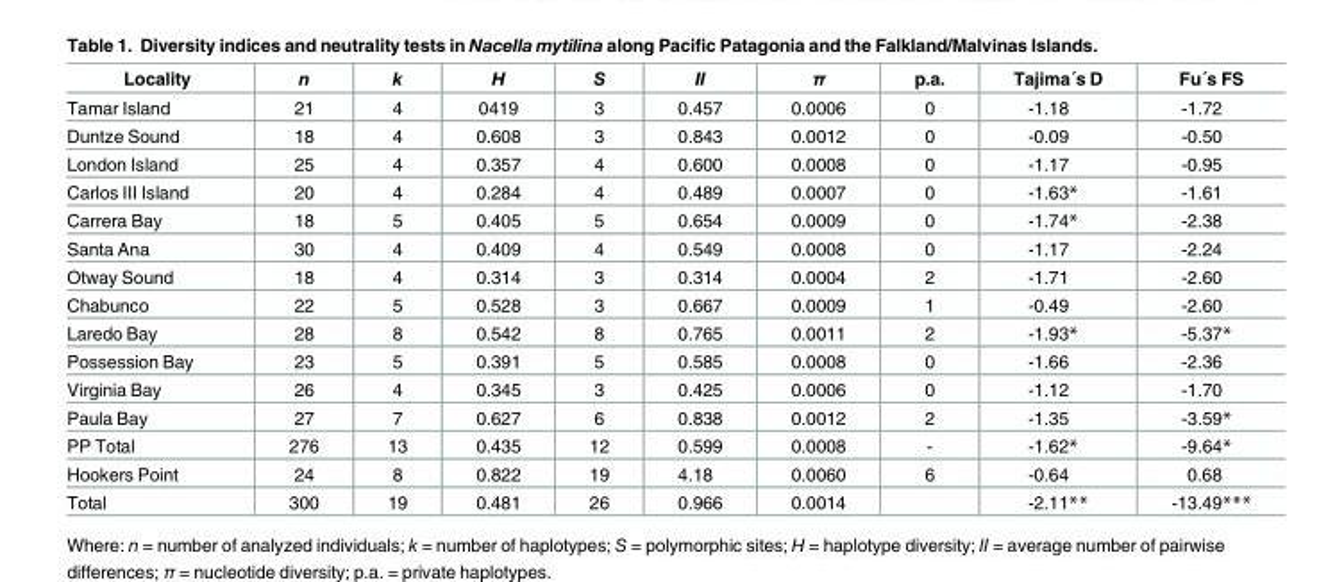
<table><thead><tr><td>Locality</td><td>n</td><td>k</td><td>H</td><td>S</td><td>II</td><td>π</td><td>p.a.</td><td>Tajima´s D</td><td>Fu´s FS</td></tr></thead><tbody><tr><td>Tamar Island</td><td>21</td><td>4</td><td>0419</td><td>3</td><td>0.457</td><td>0.0006</td><td>0</td><td>-1.18</td><td>-1.72</td></tr><tr><td>Duntze Sound</td><td>18</td><td>4</td><td>0.608</td><td>3</td><td>0.843</td><td>0.0012</td><td>0</td><td>-0.09</td><td>-0.50</td></tr><tr><td>London Island</td><td>25</td><td>4</td><td>0.357</td><td>4</td><td>0.600</td><td>0.0008</td><td>0</td><td>-1.17</td><td>-0.95</td></tr><tr><td>Carlos III Island</td><td>20</td><td>4</td><td>0.284</td><td>4</td><td>0.489</td><td>0.0007</td><td>0</td><td>-1.63*</td><td>-1.61</td></tr><tr><td>Carrera Bay</td><td>18</td><td>5</td><td>0.405</td><td>5</td><td>0.654</td><td>0.0009</td><td>0</td><td>-1.74*</td><td>-2.38</td></tr><tr><td>Santa Ana</td><td>30</td><td>4</td><td>0.409</td><td>4</td><td>0.549</td><td>0.0008</td><td>0</td><td>-1.17</td><td>-2.24</td></tr><tr><td>Otway Sound</td><td>18</td><td>4</td><td>0.314</td><td>3</td><td>0.314</td><td>0.0004</td><td>2</td><td>-1.71</td><td>-2.60</td></tr><tr><td>Chabunco</td><td>22</td><td>5</td><td>0.528</td><td>3</td><td>0.667</td><td>0.0009</td><td>1</td><td>-0.49</td><td>-2.60</td></tr><tr><td>Laredo Bay</td><td>28</td><td>8</td><td>0.542</td><td>8</td><td>0.765</td><td>0.0011</td><td>2</td><td>-1.93*</td><td>-5.37*</td></tr><tr><td>Possession Bay</td><td>23</td><td>5</td><td>0.391</td><td>5</td><td>0.585</td><td>0.0008</td><td>0</td><td>-1.66</td><td>-2.36</td></tr><tr><td>Virginia Bay</td><td>26</td><td>4</td><td>0.345</td><td>3</td><td>0.425</td><td>0.0006</td><td>0</td><td>-1.12</td><td>-1.70</td></tr><tr><td>Paula Bay</td><td>27</td><td>7</td><td>0.627</td><td>6</td><td>0.838</td><td>0.0012</td><td>2</td><td>-1.35</td><td>-3.59*</td></tr><tr><td>PP Total</td><td>276</td><td>13</td><td>0.435</td><td>12</td><td>0.599</td><td>0.0008</td><td>-</td><td>-1.62*</td><td>-9.64*</td></tr><tr><td>Hookers Point</td><td>24</td><td>8</td><td>0.822</td><td>19</td><td>4.18</td><td>0.0060</td><td>6</td><td>-0.64</td><td>0.68</td></tr><tr><td>Total</td><td>300</td><td>19</td><td>0.481</td><td>26</td><td>0.966</td><td>0.0014</td><td></td><td>-2.11**</td><td>-13.49***</td></tr></tbody></table>